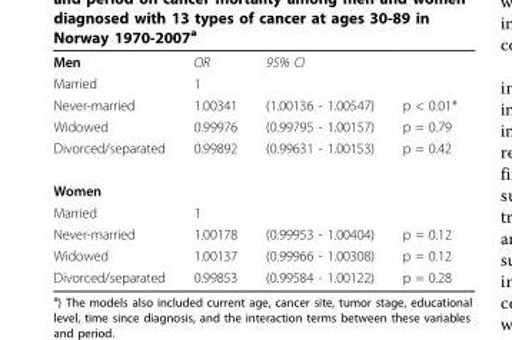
<table><tbody><tr><td>Men</td><td>OR</td><td>95% CI</td><td></td></tr><tr><td>Married</td><td>1</td><td></td><td></td></tr><tr><td>Never-married</td><td>1.00341</td><td>(1.00136 - 1.00547)</td><td>p &lt; 0.01*</td></tr><tr><td>Widowed</td><td>0.99976</td><td>(0.99795 - 1.00157)</td><td>p = 0.79</td></tr><tr><td>Divorced/separated</td><td>0.99892</td><td>(0.99631 - 1.00153)</td><td>p = 0.42</td></tr><tr><td colspan="4">Women</td></tr><tr><td>Married</td><td>1</td><td></td><td></td></tr><tr><td>Never-married</td><td>1.00178</td><td>(0.99953 - 1.00404)</td><td>p = 0.12</td></tr><tr><td>Widowed</td><td>1.00137</td><td>(0.99966 - 1.00308)</td><td>p = 0.12</td></tr><tr><td>Divorced/separated</td><td>0.99853</td><td>(0.99584 - 1.00122)</td><td>p = 0.28</td></tr></tbody></table>